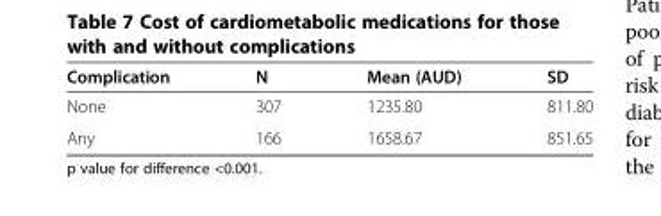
<table><thead><tr><td>Complication</td><td>N</td><td>Mean (AUD)</td><td>SD</td></tr></thead><tbody><tr><td>None</td><td>307</td><td>1235.80</td><td>811.80</td></tr><tr><td>Any</td><td>166</td><td>1658.67</td><td>851.65</td></tr></tbody></table>